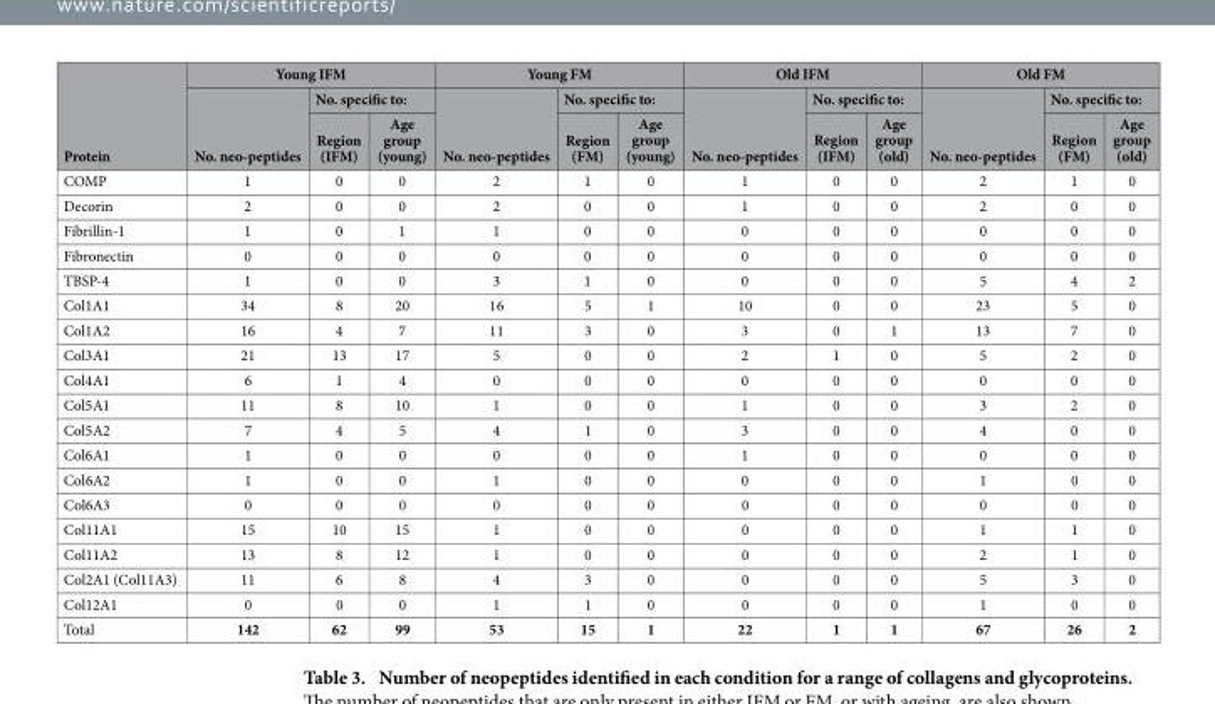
<table><thead><tr><td rowspan="3">Protein</td><td colspan="3">Young IFM</td><td colspan="3">Young FM</td><td colspan="3">Old IFM</td><td colspan="3">Old FM</td></tr><tr><td rowspan="2">No. neo-peptides</td><td colspan="2">No. specific to:</td><td rowspan="2">No. neo-peptides</td><td colspan="2">No. specific to:</td><td rowspan="2">No. neo-peptides</td><td colspan="2">No. specific to:</td><td rowspan="2">No. neo-peptides</td><td colspan="2">No. specific to:</td></tr><tr><td>Region (IFM)</td><td>Age group (young)</td><td>Region (FM)</td><td>Age group (young)</td><td>Region (IFM)</td><td>Age group (old)</td><td>Region (FM)</td><td>Age group (old)</td></tr></thead><tbody><tr><td>COMP</td><td>1</td><td>0</td><td>0</td><td>2</td><td>1</td><td>0</td><td>1</td><td>0</td><td>0</td><td>2</td><td>1</td><td>0</td></tr><tr><td>Decorin</td><td>2</td><td>0</td><td>0</td><td>2</td><td>0</td><td>0</td><td>1</td><td>0</td><td>0</td><td>2</td><td>0</td><td>0</td></tr><tr><td>Fibrillin-1</td><td>1</td><td>0</td><td>1</td><td>1</td><td>0</td><td>0</td><td>0</td><td>0</td><td>0</td><td>0</td><td>0</td><td>0</td></tr><tr><td>Fibronectin</td><td>0</td><td>0</td><td>0</td><td>0</td><td>0</td><td>0</td><td>0</td><td>0</td><td>0</td><td>0</td><td>0</td><td>0</td></tr><tr><td>TBSP-4</td><td>1</td><td>0</td><td>0</td><td>3</td><td>1</td><td>0</td><td>0</td><td>0</td><td>0</td><td>5</td><td>4</td><td>2</td></tr><tr><td>Col1A1</td><td>34</td><td>8</td><td>20</td><td>16</td><td>5</td><td>1</td><td>10</td><td>0</td><td>0</td><td>23</td><td>5</td><td>0</td></tr><tr><td>Col1A2</td><td>16</td><td>4</td><td>7</td><td>11</td><td>3</td><td>0</td><td>3</td><td>0</td><td>1</td><td>13</td><td>7</td><td>0</td></tr><tr><td>Col3A1</td><td>21</td><td>13</td><td>17</td><td>5</td><td>0</td><td>0</td><td>2</td><td>1</td><td>0</td><td>5</td><td>2</td><td>0</td></tr><tr><td>Col4A1</td><td>6</td><td>1</td><td>4</td><td>0</td><td>0</td><td>0</td><td>0</td><td>0</td><td>0</td><td>0</td><td>0</td><td>0</td></tr><tr><td>Col5A1</td><td>11</td><td>8</td><td>10</td><td>1</td><td>0</td><td>0</td><td>1</td><td>0</td><td>0</td><td>3</td><td>2</td><td>0</td></tr><tr><td>Col5A2</td><td>7</td><td>4</td><td>5</td><td>4</td><td>1</td><td>0</td><td>3</td><td>0</td><td>0</td><td>4</td><td>0</td><td>0</td></tr><tr><td>Col6A1</td><td>1</td><td>0</td><td>0</td><td>0</td><td>0</td><td>0</td><td>1</td><td>0</td><td>0</td><td>0</td><td>0</td><td>0</td></tr><tr><td>Col6A2</td><td>1</td><td>0</td><td>0</td><td>1</td><td>0</td><td>0</td><td>0</td><td>0</td><td>0</td><td>1</td><td>0</td><td>0</td></tr><tr><td>Col6A3</td><td>0</td><td>0</td><td>0</td><td>0</td><td>0</td><td>0</td><td>0</td><td>0</td><td>0</td><td>0</td><td>0</td><td>0</td></tr><tr><td>Col11A1</td><td>15</td><td>10</td><td>15</td><td>1</td><td>0</td><td>0</td><td>0</td><td>0</td><td>0</td><td>1</td><td>1</td><td>0</td></tr><tr><td>Col11A2</td><td>13</td><td>8</td><td>12</td><td>1</td><td>0</td><td>0</td><td>0</td><td>0</td><td>0</td><td>2</td><td>1</td><td>0</td></tr><tr><td>Col2A1 (Col11A3)</td><td>11</td><td>6</td><td>8</td><td>4</td><td>3</td><td>0</td><td>0</td><td>0</td><td>0</td><td>5</td><td>3</td><td>0</td></tr><tr><td>Col12A1</td><td>0</td><td>0</td><td>0</td><td>1</td><td>1</td><td>0</td><td>0</td><td>0</td><td>0</td><td>1</td><td>0</td><td>0</td></tr><tr><td>Total</td><td>142</td><td>62</td><td>99</td><td>53</td><td>15</td><td>1</td><td>22</td><td>1</td><td>1</td><td>67</td><td>26</td><td>2</td></tr></tbody></table>